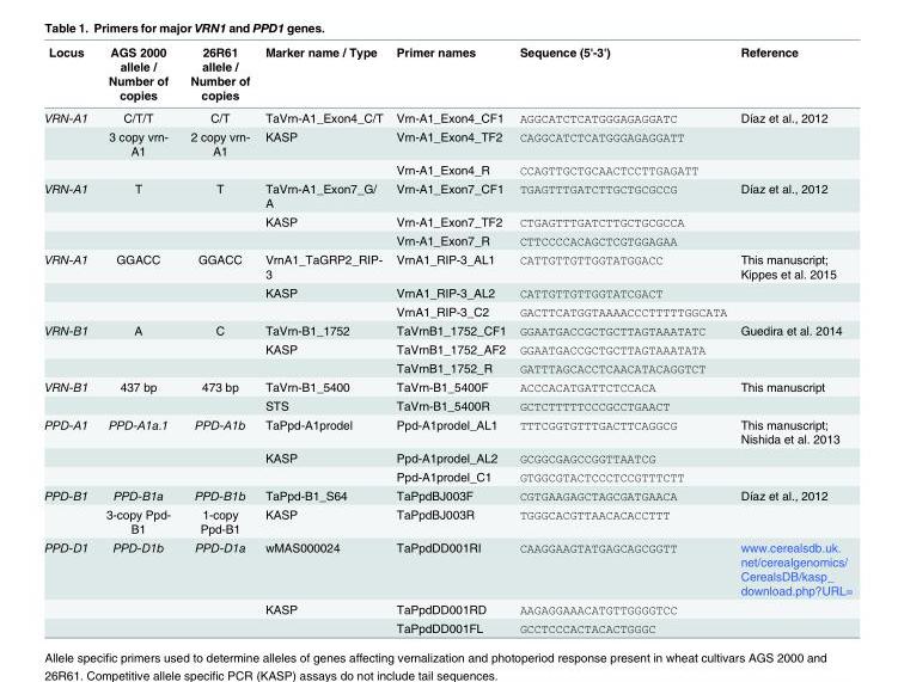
<table><thead><tr><td>Locus</td><td>AGS 2000 allele / Number of copies</td><td>26R61 allele / Number of copies</td><td>Marker name / Type</td><td>Primer names</td><td>Sequence (5&#x27;-3&#x27;)</td><td>Reference</td></tr></thead><tbody><tr><td rowspan="3">VRN-A1</td><td>C/T/T</td><td>C/T</td><td>TaVrn-A1_Exon4_C/T</td><td>Vrn-A1_Exon4_CF1</td><td>AGGCATCTCATGGGAGAGGATC</td><td>Díaz et al., 2012</td></tr><tr><td>3 copy vrn- A1</td><td>2 copy vrn- A1</td><td>KASP</td><td>Vrn-A1_Exon4_TF2</td><td>CAGGCATCTCATGGGAGAGGATT</td><td></td></tr><tr><td></td><td></td><td></td><td>Vrn-A1_Exon4_R</td><td>CCAGTTGCTGCAACTCCTTGAGATT</td><td></td></tr><tr><td rowspan="3">VRN-A1</td><td>T</td><td>T</td><td>TaVrn-A1_Exon7_G/ A</td><td>Vrn-A1_Exon7_CF1</td><td>TGAGTTTGATCTTGCTGCGCCG</td><td>Díaz et al., 2012</td></tr><tr><td></td><td></td><td>KASP</td><td>Vrn-A1_Exon7_TF2</td><td>CTGAGTTTGATCTTGCTGCGCCA</td><td></td></tr><tr><td></td><td></td><td></td><td>Vrn-A1_Exon7_R</td><td>CTTCCCCACAGCTCGTGGAGAA</td><td></td></tr><tr><td rowspan="3">VRN-A1</td><td>GGACC</td><td>GGACC</td><td>VrnA1_TaGRP2_RIP- 3</td><td>VrnA1_RIP-3_AL1</td><td>CATTGTTGTTGGTATGGACC</td><td>This manuscript; Kippes et al. 2015</td></tr><tr><td></td><td></td><td>KASP</td><td>VrnA1_RIP-3_AL2</td><td>CATTGTTGTTGGTATCGACT</td><td></td></tr><tr><td></td><td></td><td></td><td>VrnA1_RIP-3_C2</td><td>GACTTCATGGTAAAACCCTTTTTGGCATA</td><td></td></tr><tr><td rowspan="3">VRN-B1</td><td>A</td><td>C</td><td>TaVrn-B1_1752</td><td>TaVrnB1_1752_CF1</td><td>GGAATGACCGCTGCTTAGTAAATATC</td><td>Guedira et al. 2014</td></tr><tr><td></td><td></td><td>KASP</td><td>TaVrnB1_1752_AF2</td><td>GGAATGACCGCTGCTTAGTAAATATA</td><td></td></tr><tr><td></td><td></td><td></td><td>TaVrnB1_1752_R</td><td>GATTTAGCACCTCAACATACAGGTCT</td><td></td></tr><tr><td rowspan="2">VRN-B1</td><td>437 bp</td><td>473 bp</td><td>TaVrn-B1_5400</td><td>TaVrn-B1_5400F</td><td>ACCCACATGATTCTCCACA</td><td>This manuscript</td></tr><tr><td></td><td></td><td>STS</td><td>TaVrn-B1_5400R</td><td>GCTCTTTTTCCCGCCTGAACT</td><td></td></tr><tr><td rowspan="3">PPD-A1</td><td>PPD-A1a.1</td><td>PPD-A1b</td><td>TaPpd-A1prodel</td><td>Ppd-A1prodel_AL1</td><td>TTTCGGTGTTTGACTTCAGGCG</td><td>This manuscript; Nishida et al. 2013</td></tr><tr><td></td><td></td><td>KASP</td><td>Ppd-A1prodel_AL2</td><td>GCGGCGAGCCGGTTAATCG</td><td></td></tr><tr><td></td><td></td><td></td><td>Ppd-A1prodel_C1</td><td>GTGGCGTACTCCCTCCGTTTCTT</td><td></td></tr><tr><td rowspan="2">PPD-B1</td><td>PPD-B1a</td><td>PPD-B1b</td><td>TaPpd-B1_S64</td><td>TaPpdBJ003F</td><td>CGTGAAGAGCTAGCGATGAACA</td><td>Díaz et al., 2012</td></tr><tr><td>3-copy Ppd- B1</td><td>1-copy Ppd-B1</td><td>KASP</td><td>TaPpdBJ003R</td><td>TGGGCACGTTAACACACCTTT</td><td></td></tr><tr><td rowspan="3">PPD-D1</td><td>PPD-D1b</td><td>PPD-D1a</td><td>wMAS000024</td><td>TaPpdDD001RI</td><td>CAAGGAAGTATGAGCAGCGGTT</td><td>www.cerealsdb.uk. net/cerealgenomics/ CerealsDB/kasp_ download.php?URL=</td></tr><tr><td></td><td></td><td>KASP</td><td>TaPpdDD001RD</td><td>AAGAGGAAACATGTTGGGGTCC</td><td></td></tr><tr><td></td><td></td><td></td><td>TaPpdDD001FL</td><td>GCCTCCCACTACACTGGGC</td><td></td></tr></tbody></table>